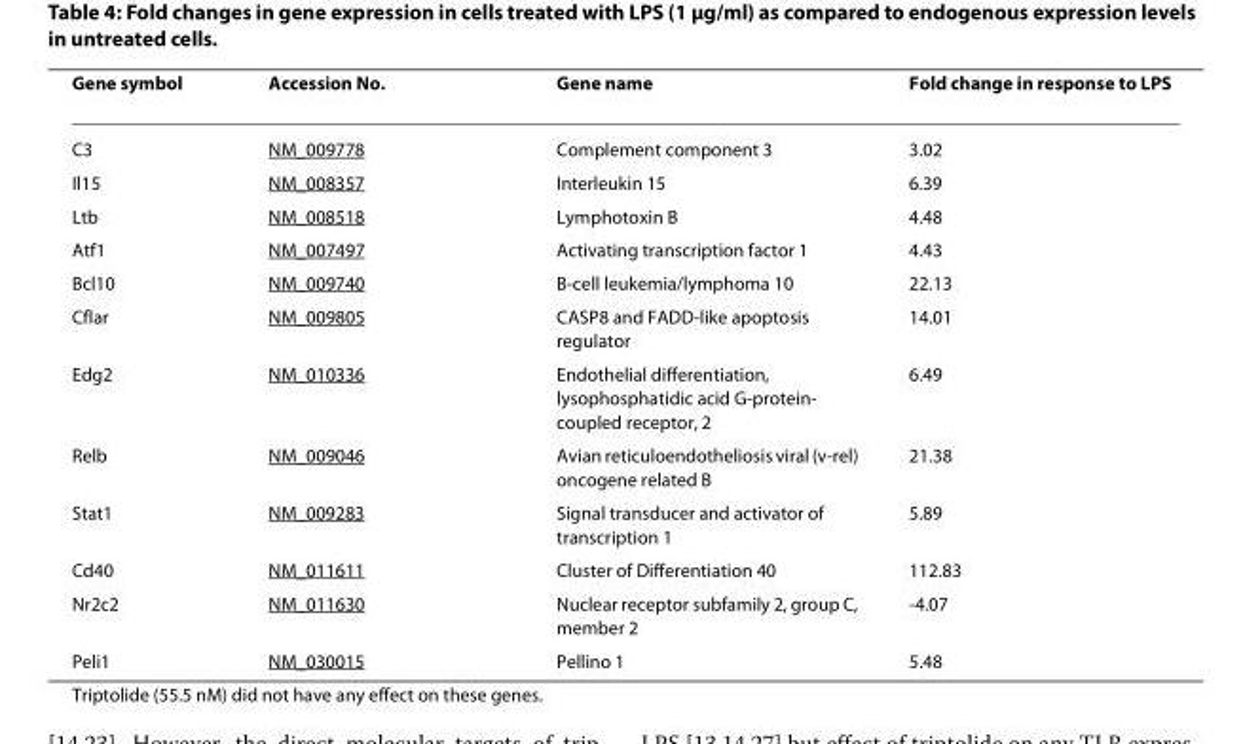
<table><thead><tr><td>Gene symbol</td><td>Accession No.</td><td>Gene name</td><td>Fold change in response to LPS</td></tr></thead><tbody><tr><td>C3</td><td>NM_009778</td><td>Complement component 3</td><td>3.02</td></tr><tr><td>Il15</td><td>NM_008357</td><td>Interleukin 15</td><td>6.39</td></tr><tr><td>Ltb</td><td>NM_008518</td><td>Lymphotoxin B</td><td>4.48</td></tr><tr><td>Atf1</td><td>NM_007497</td><td>Activating transcription factor 1</td><td>4.43</td></tr><tr><td>Bcl10</td><td>NM_009740</td><td>B-cell leukemia/lymphoma 10</td><td>22.13</td></tr><tr><td>Cflar</td><td>NM_009805</td><td>CASP8 and FADD-like apoptosis regulator</td><td>14.01</td></tr><tr><td>Edg2</td><td>NM_010336</td><td>Endothelial differentiation, lysophosphatidic acid G-protein- coupled receptor, 2</td><td>6.49</td></tr><tr><td>Relb</td><td>NM_009046</td><td>Avian reticuloendotheliosis viral (v-rel) oncogene related B</td><td>21.38</td></tr><tr><td>Stat1</td><td>NM_009283</td><td>Signal transducer and activator of transcription 1</td><td>5.89</td></tr><tr><td>Cd40</td><td>NM_011611</td><td>Cluster of Differentiation 40</td><td>112.83</td></tr><tr><td>Nr2c2</td><td>NM_011630</td><td>Nuclear receptor subfamily 2, group C, member 2</td><td>-4.07</td></tr><tr><td>Peli1</td><td>NM_030015</td><td>Pellino 1</td><td>5.48</td></tr></tbody></table>